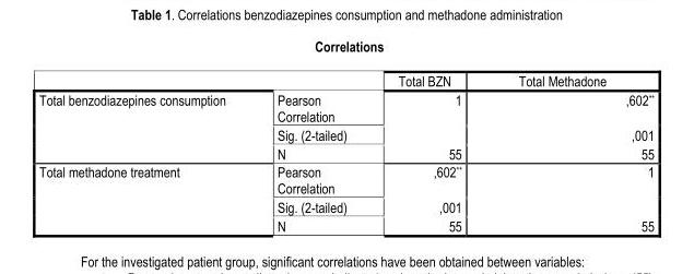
<table><thead><tr><td></td><td>Correlations</td><td></td><td></td></tr></thead><tbody><tr><td></td><td></td><td>Total BZN</td><td>Total Methadone</td></tr><tr><td rowspan="3">Total benzodiazepines consumption</td><td>Pearson Correlation</td><td>1</td><td>,602**</td></tr><tr><td>Sig. (2-tailed)</td><td></td><td>,001</td></tr><tr><td>N</td><td>55</td><td>55</td></tr><tr><td rowspan="3">Total methadone treatment</td><td>Pearson Correlation</td><td>,602**</td><td>1</td></tr><tr><td>Sig. (2-tailed)</td><td>,001</td><td></td></tr><tr><td>N</td><td>55</td><td>55</td></tr></tbody></table>